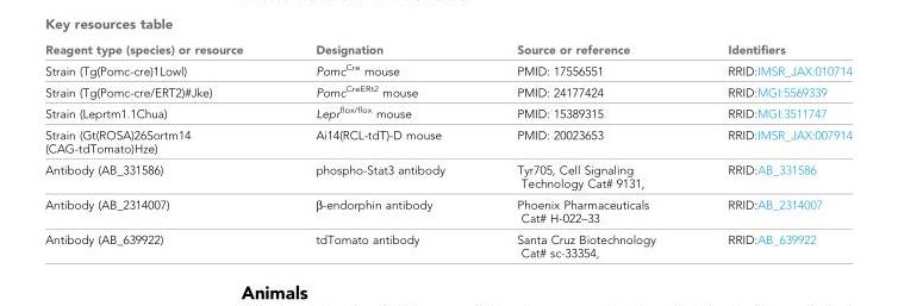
<table><thead><tr><td>Reagent type (species) or resource</td><td>Designation</td><td>Source or reference</td><td>Identifiers</td></tr></thead><tbody><tr><td>Strain (Tg(Pomc-cre)1Lowl)</td><td>Pomc<sup>Cre</sup> mouse</td><td>PMID: 17556551</td><td>RRID:IMSR_JAX:010714</td></tr><tr><td>Strain (Tg(Pomc-cre/ERT2)#Jke)</td><td>Pomc<sup>CreERt2</sup> mouse</td><td>PMID: 24177424</td><td>RRID:MGI:5569339</td></tr><tr><td>Strain (Leprtm1.1Chua)</td><td>Lepr<sup>flox/flox</sup> mouse</td><td>PMID: 15389315</td><td>RRID:MGI:3511747</td></tr><tr><td>Strain (Gt(ROSA)26Sortm14 (CAG-tdTomato)Hze)</td><td>Ai14(RCL-tdT)-D mouse</td><td>PMID: 20023653</td><td>RRID:IMSR_JAX:007914</td></tr><tr><td>Antibody (AB_331586)</td><td>phospho-Stat3 antibody</td><td>Tyr705, Cell Signaling Technology Cat# 9131,</td><td>RRID:AB_331586</td></tr><tr><td>Antibody (AB_2314007)</td><td>β-endorphin antibody</td><td>Phoenix Pharmaceuticals Cat# H-022–33</td><td>RRID:AB_2314007</td></tr><tr><td>Antibody (AB_639922)</td><td>tdTomato antibody</td><td>Santa Cruz Biotechnology Cat# sc-33354,</td><td>RRID:AB_639922</td></tr></tbody></table>